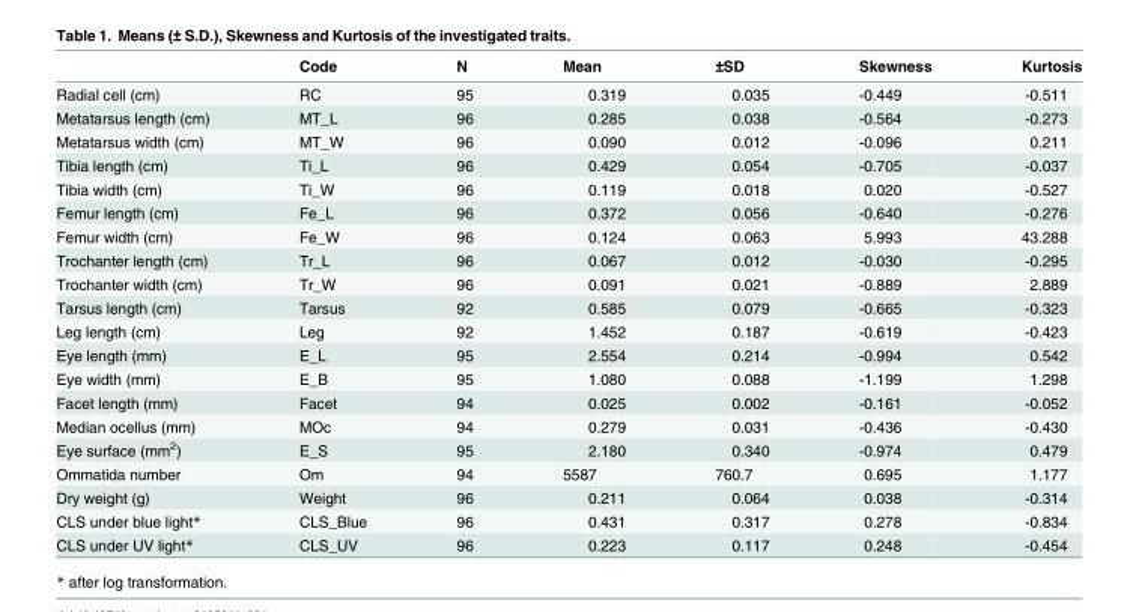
<table><thead><tr><td></td><td>Code</td><td>N</td><td>Mean</td><td>±SD</td><td>Skewness</td><td>Kurtosis</td></tr></thead><tbody><tr><td>Radial cell (cm)</td><td>RC</td><td>95</td><td>0.319</td><td>0.035</td><td>-0.449</td><td>-0.511</td></tr><tr><td>Metatarsus length (cm)</td><td>MT_L</td><td>96</td><td>0.285</td><td>0.038</td><td>-0.564</td><td>-0.273</td></tr><tr><td>Metatarsus width (cm)</td><td>MT_W</td><td>96</td><td>0.090</td><td>0.012</td><td>-0.096</td><td>0.211</td></tr><tr><td>Tibia length (cm)</td><td>Ti_L</td><td>96</td><td>0.429</td><td>0.054</td><td>-0.705</td><td>-0.037</td></tr><tr><td>Tibia width (cm)</td><td>Ti_W</td><td>96</td><td>0.119</td><td>0.018</td><td>0.020</td><td>-0.527</td></tr><tr><td>Femur length (cm)</td><td>Fe_L</td><td>96</td><td>0.372</td><td>0.056</td><td>-0.640</td><td>-0.276</td></tr><tr><td>Femur width (cm)</td><td>Fe_W</td><td>96</td><td>0.124</td><td>0.063</td><td>5.993</td><td>43.288</td></tr><tr><td>Trochanter length (cm)</td><td>Tr_L</td><td>96</td><td>0.067</td><td>0.012</td><td>-0.030</td><td>-0.295</td></tr><tr><td>Trochanter width (cm)</td><td>Tr_W</td><td>96</td><td>0.091</td><td>0.021</td><td>-0.889</td><td>2.889</td></tr><tr><td>Tarsus length (cm)</td><td>Tarsus</td><td>92</td><td>0.585</td><td>0.079</td><td>-0.665</td><td>-0.323</td></tr><tr><td>Leg length (cm)</td><td>Leg</td><td>92</td><td>1.452</td><td>0.187</td><td>-0.619</td><td>-0.423</td></tr><tr><td>Eye length (mm)</td><td>E_L</td><td>95</td><td>2.554</td><td>0.214</td><td>-0.994</td><td>0.542</td></tr><tr><td>Eye width (mm)</td><td>E_B</td><td>95</td><td>1.080</td><td>0.088</td><td>-1.199</td><td>1.298</td></tr><tr><td>Facet length (mm)</td><td>Facet</td><td>94</td><td>0.025</td><td>0.002</td><td>-0.161</td><td>-0.052</td></tr><tr><td>Median ocellus (mm)</td><td>MOc</td><td>94</td><td>0.279</td><td>0.031</td><td>-0.436</td><td>-0.430</td></tr><tr><td>Eye surface (mm<sup>2</sup>)</td><td>E_S</td><td>95</td><td>2.180</td><td>0.340</td><td>-0.974</td><td>0.479</td></tr><tr><td>Ommatida number</td><td>Om</td><td>94</td><td>5587</td><td>760.7</td><td>0.695</td><td>1.177</td></tr><tr><td>Dry weight (g)</td><td>Weight</td><td>96</td><td>0.211</td><td>0.064</td><td>0.038</td><td>-0.314</td></tr><tr><td>CLS under blue light*</td><td>CLS_Blue</td><td>96</td><td>0.431</td><td>0.317</td><td>0.278</td><td>-0.834</td></tr><tr><td>CLS under UV light*</td><td>CLS_UV</td><td>96</td><td>0.223</td><td>0.117</td><td>0.248</td><td>-0.454</td></tr></tbody></table>